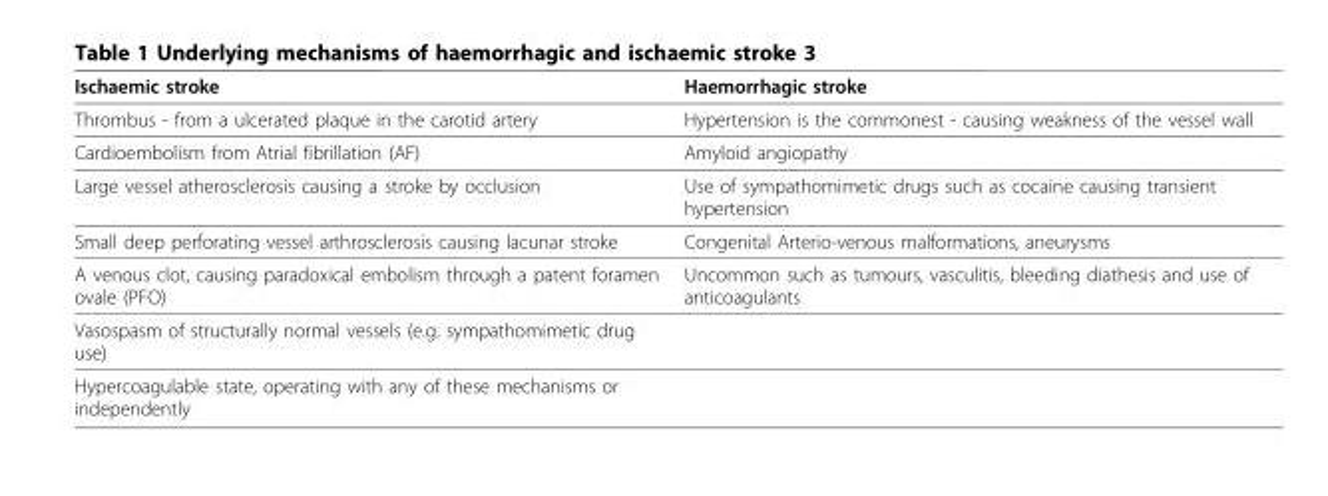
<table><thead><tr><td>Ischaemic stroke</td><td>Haemorrhagic stroke</td></tr></thead><tbody><tr><td>Thrombus - from a ulcerated plaque in the carotid artery</td><td>Hypertension is the commonest - causing weakness of the vessel wall</td></tr><tr><td>Cardioembolism from Atrial fibrillation (AF)</td><td>Amyloid angiopathy</td></tr><tr><td>Large vessel atherosclerosis causing a stroke by occlusion</td><td>Use of sympathomimetic drugs such as cocaine causing transient hypertension</td></tr><tr><td>Small deep perforating vessel arthrosclerosis causing lacunar stroke</td><td>Congenital Arterio-venous malformations, aneurysms</td></tr><tr><td>A venous clot, causing paradoxical embolism through a patent foramen ovale (PFO)</td><td>Uncommon such as tumours, vasculitis, bleeding diathesis and use of anticoagulants</td></tr><tr><td colspan="2">Vasospasm of structurally normal vessels (e.g. sympathomimetic drug use)</td></tr><tr><td>Hypercoagulable state, operating with any of these mechanisms or independently</td><td></td></tr></tbody></table>